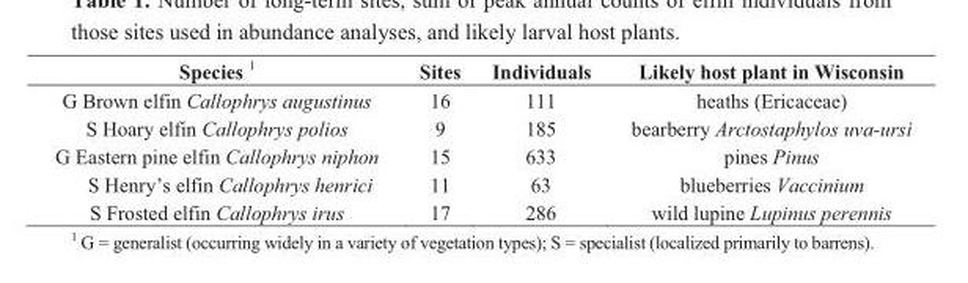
<table><thead><tr><td>Species <sup>1</sup></td><td>Sites</td><td>Individuals</td><td>Likely host plant in Wisconsin</td></tr></thead><tbody><tr><td>G Brown elfin Callophrys augustinus</td><td>16</td><td>111</td><td>heaths (Ericaceae)</td></tr><tr><td>S Hoary elfin Callophrys polios</td><td>9</td><td>185</td><td>bearberry Arctostaphylos uva-ursi</td></tr><tr><td>G Eastern pine elfin Callophrys niphon</td><td>15</td><td>633</td><td>pines Pinus</td></tr><tr><td>S Henry’s elfin Callophrys henrici</td><td>11</td><td>63</td><td>blueberries Vaccinium</td></tr><tr><td>S Frosted elfin Callophrys irus</td><td>17</td><td>286</td><td>wild lupine Lupinus perennis</td></tr></tbody></table>